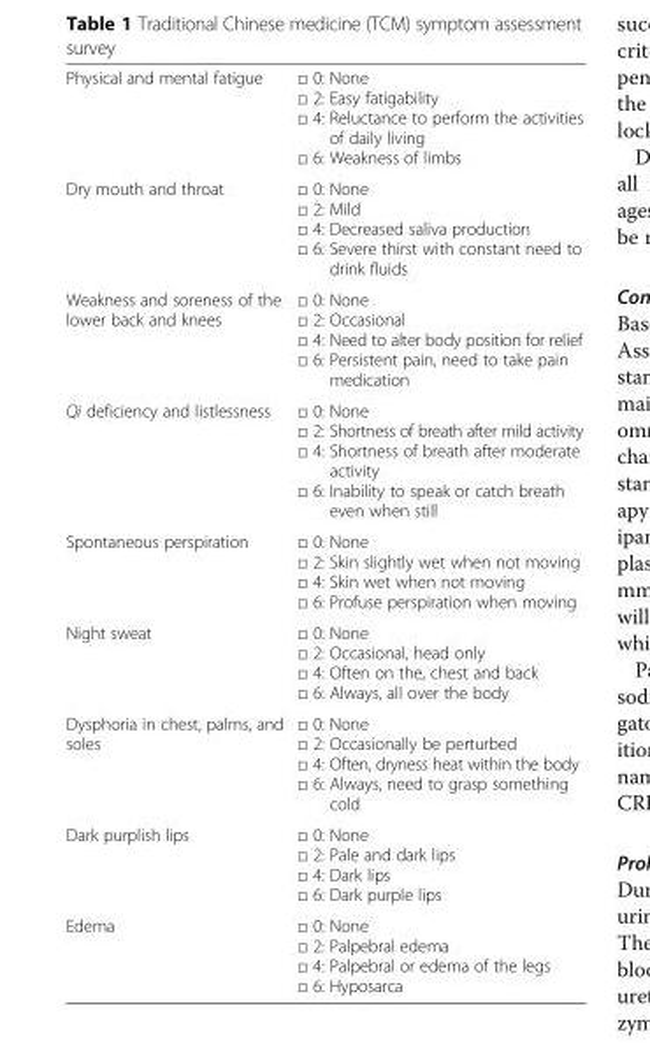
<table><tbody><tr><td>Physical and mental fatigue</td><td>□ 0: None □ 2: Easy fatigability □ 4: Reluctance to perform the activities of daily living □ 6: Weakness of limbs</td></tr><tr><td>Dry mouth and throat</td><td>□ 0: None □ 2: Mild □ 4: Decreased saliva production □ 6: Severe thirst with constant need to drink fluids</td></tr><tr><td>Weakness and soreness of the lower back and knees</td><td>□ 0: None □ 2: Occasional □ 4: Need to alter body position for relief □ 6: Persistent pain, need to take pain medication</td></tr><tr><td>Qi deficiency and listlessness</td><td>□ 0: None □ 2: Shortness of breath after mild activity □ 4: Shortness of breath after moderate activity □ 6: Inability to speak or catch breath even when still</td></tr><tr><td>Spontaneous perspiration</td><td>□ 0: None □ 2: Skin slightly wet when not moving □ 4: Skin wet when not moving □ 6: Profuse perspiration when moving</td></tr><tr><td>Night sweat</td><td>□ 0: None □ 2: Occasional, head only □ 4: Often on the, chest and back □ 6: Always, all over the body</td></tr><tr><td>Dysphoria in chest, palms, and soles</td><td>□ 0: None □ 2: Occasionally be perturbed □ 4: Often, dryness heat within the body □ 6: Always, need to grasp something cold</td></tr><tr><td>Dark purplish lips</td><td>□ 0: None □ 2: Pale and dark lips □ 4: Dark lips □ 6: Dark purple lips</td></tr><tr><td>Edema</td><td>□ 0: None □ 2: Palpebral edema □ 4: Palpebral or edema of the legs □ 6: Hyposarca</td></tr></tbody></table>